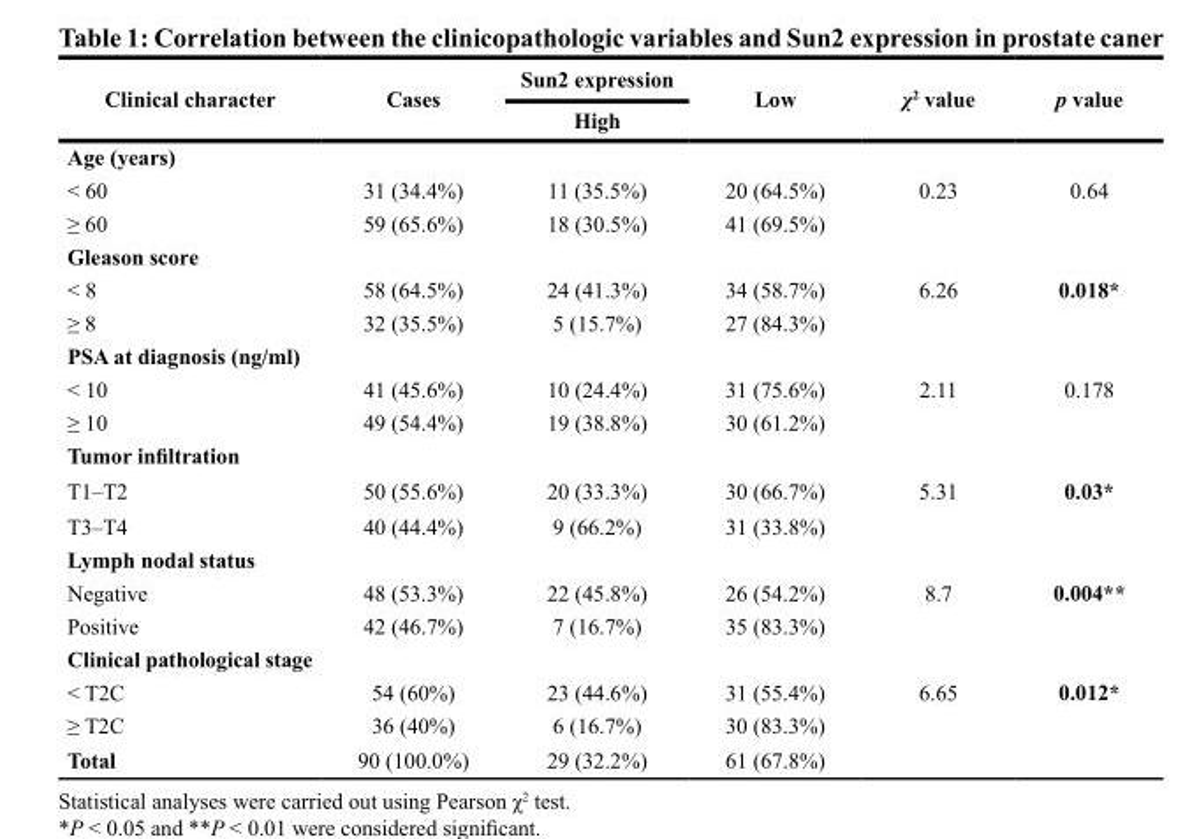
<table><thead><tr><td rowspan="2">Clinical character</td><td rowspan="2">Cases</td><td rowspan="2">Sun2 expression High</td><td rowspan="2">Low</td><td rowspan="2">χ<sup>2</sup> value</td><td rowspan="2">p value</td></tr><tr></tr></thead><tbody><tr><td colspan="6">Age (years)</td></tr><tr><td>&lt; 60</td><td>31 (34.4%)</td><td>11 (35.5%)</td><td>20 (64.5%)</td><td>0.23</td><td>0.64</td></tr><tr><td>≥ 60</td><td>59 (65.6%)</td><td>18 (30.5%)</td><td>41 (69.5%)</td><td></td><td></td></tr><tr><td colspan="6">Gleason score</td></tr><tr><td>&lt; 8</td><td>58 (64.5%)</td><td>24 (41.3%)</td><td>34 (58.7%)</td><td>6.26</td><td>0.018*</td></tr><tr><td>≥ 8</td><td>32 (35.5%)</td><td>5 (15.7%)</td><td>27 (84.3%)</td><td></td><td></td></tr><tr><td colspan="6">PSA at diagnosis (ng/ml)</td></tr><tr><td>&lt; 10</td><td>41 (45.6%)</td><td>10 (24.4%)</td><td>31 (75.6%)</td><td>2.11</td><td>0.178</td></tr><tr><td>≥ 10</td><td>49 (54.4%)</td><td>19 (38.8%)</td><td>30 (61.2%)</td><td></td><td></td></tr><tr><td colspan="6">Tumor infiltration</td></tr><tr><td>T1–T2</td><td>50 (55.6%)</td><td>20 (33.3%)</td><td>30 (66.7%)</td><td>5.31</td><td>0.03*</td></tr><tr><td>T3–T4</td><td>40 (44.4%)</td><td>9 (66.2%)</td><td>31 (33.8%)</td><td></td><td></td></tr><tr><td colspan="6">Lymph nodal status</td></tr><tr><td>Negative</td><td>48 (53.3%)</td><td>22 (45.8%)</td><td>26 (54.2%)</td><td>8.7</td><td>0.004**</td></tr><tr><td>Positive</td><td>42 (46.7%)</td><td>7 (16.7%)</td><td>35 (83.3%)</td><td></td><td></td></tr><tr><td colspan="6">Clinical pathological stage</td></tr><tr><td>&lt; T2C</td><td>54 (60%)</td><td>23 (44.6%)</td><td>31 (55.4%)</td><td>6.65</td><td>0.012*</td></tr><tr><td>≥ T2C</td><td>36 (40%)</td><td>6 (16.7%)</td><td>30 (83.3%)</td><td></td><td></td></tr><tr><td>Total</td><td>90 (100.0%)</td><td>29 (32.2%)</td><td>61 (67.8%)</td><td></td><td></td></tr></tbody></table>